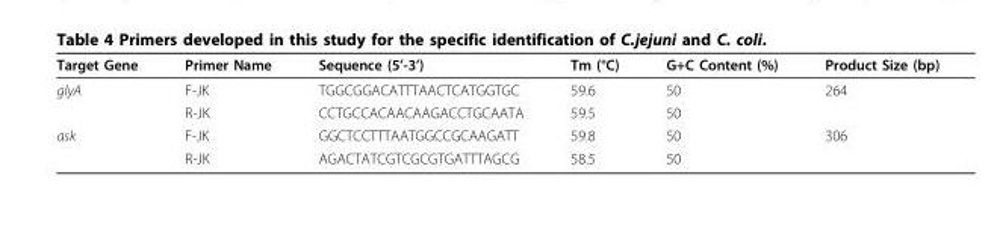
<table><thead><tr><td>Target Gene</td><td>Primer Name</td><td>Sequence (5’-3’)</td><td>Tm (°C)</td><td>G+C Content (%)</td><td>Product Size (bp)</td></tr></thead><tbody><tr><td rowspan="2">glyA</td><td>F-JK</td><td>TGGCGGACATTTAACTCATGGTGC</td><td>59.6</td><td>50</td><td>264</td></tr><tr><td>R-JK</td><td>CCTGCCACAACAAGACCTGCAATA</td><td>59.5</td><td>50</td><td></td></tr><tr><td rowspan="2">ask</td><td>F-JK</td><td>GGCTCCTTTAATGGCCGCAAGATT</td><td>59.8</td><td>50</td><td>306</td></tr><tr><td>R-JK</td><td>AGACTATCGTCGCGTGATTTAGCG</td><td>58.5</td><td>50</td><td></td></tr></tbody></table>